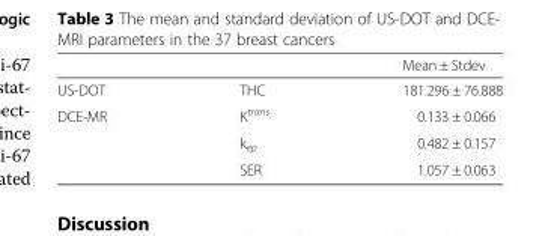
<table><thead><tr><td></td><td></td><td>Mean ± Stdev</td></tr></thead><tbody><tr><td>US-DOT</td><td>THC</td><td>181.296 ± 76.888</td></tr><tr><td rowspan="3">DCE-MR</td><td>K<sup>trans</sup></td><td>0.133 ± 0.066</td></tr><tr><td>k<sub>ep</sub></td><td>0.482 ± 0.157</td></tr><tr><td>SER</td><td>1.057 ± 0.063</td></tr></tbody></table>